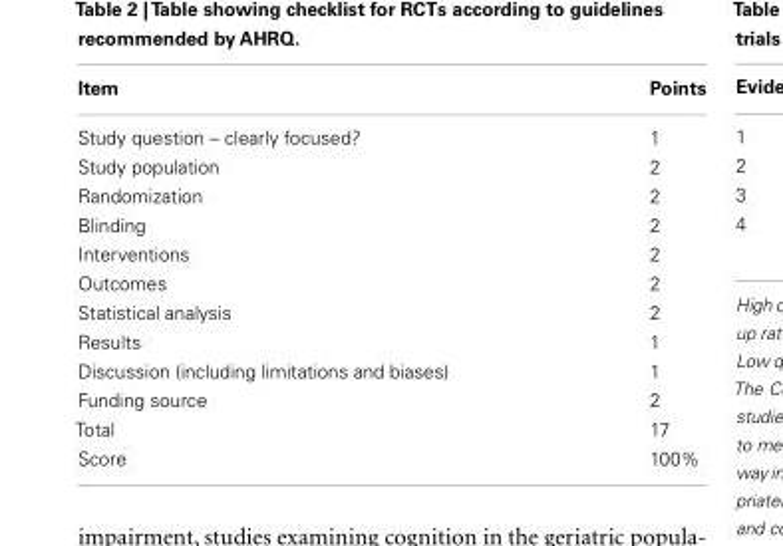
<table><thead><tr><td>Item</td><td>Points</td></tr></thead><tbody><tr><td>Study question – clearly focused?</td><td>1</td></tr><tr><td>Study population</td><td>2</td></tr><tr><td>Randomization</td><td>2</td></tr><tr><td>Blinding</td><td>2</td></tr><tr><td>Interventions</td><td>2</td></tr><tr><td>Outcomes</td><td>2</td></tr><tr><td>Statistical analysis</td><td>2</td></tr><tr><td>Results</td><td>1</td></tr><tr><td>Discussion (including limitations and biases)</td><td>1</td></tr><tr><td>Funding source</td><td>2</td></tr><tr><td>Total</td><td>17</td></tr><tr><td>Score</td><td>100%</td></tr></tbody></table>